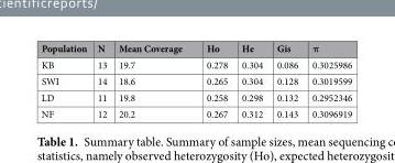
<table><thead><tr><td>Population</td><td>N</td><td>Mean Coverage</td><td>Ho</td><td>He</td><td>Gis</td><td>π</td></tr></thead><tbody><tr><td>KB</td><td>13</td><td>19.7</td><td>0.278</td><td>0.304</td><td>0.086</td><td>0.3025986</td></tr><tr><td>SWI</td><td>14</td><td>18.6</td><td>0.265</td><td>0.304</td><td>0.128</td><td>0.3019599</td></tr><tr><td>LD</td><td>11</td><td>19.8</td><td>0.258</td><td>0.298</td><td>0.132</td><td>0.2952346</td></tr><tr><td>NF</td><td>12</td><td>20.2</td><td>0.267</td><td>0.312</td><td>0.143</td><td>0.3096919</td></tr></tbody></table>